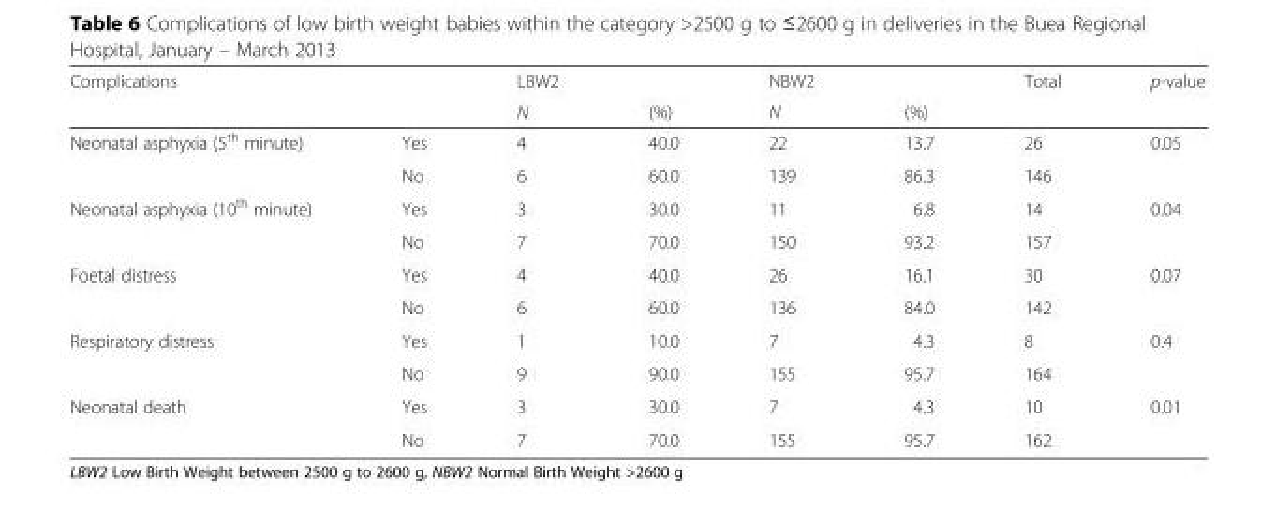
<table><thead><tr><td rowspan="2">Complications</td><td rowspan="2"></td><td rowspan="2">LBW2 N</td><td rowspan="2">(%)</td><td rowspan="2">NBW2 N</td><td rowspan="2">(%)</td><td rowspan="2">Total</td><td rowspan="2">p-value</td></tr><tr></tr></thead><tbody><tr><td rowspan="2">Neonatal asphyxia (5<sup>th</sup> minute)</td><td>Yes</td><td>4</td><td>40.0</td><td>22</td><td>13.7</td><td>26</td><td>0.05</td></tr><tr><td>No</td><td>6</td><td>60.0</td><td>139</td><td>86.3</td><td>146</td><td></td></tr><tr><td rowspan="2">Neonatal asphyxia (10<sup>th</sup> minute)</td><td>Yes</td><td>3</td><td>30.0</td><td>11</td><td>6.8</td><td>14</td><td>0.04</td></tr><tr><td>No</td><td>7</td><td>70.0</td><td>150</td><td>93.2</td><td>157</td><td></td></tr><tr><td rowspan="2">Foetal distress</td><td>Yes</td><td>4</td><td>40.0</td><td>26</td><td>16.1</td><td>30</td><td>0.07</td></tr><tr><td>No</td><td>6</td><td>60.0</td><td>136</td><td>84.0</td><td>142</td><td></td></tr><tr><td rowspan="2">Respiratory distress</td><td>Yes</td><td>1</td><td>10.0</td><td>7</td><td>4.3</td><td>8</td><td>0.4</td></tr><tr><td>No</td><td>9</td><td>90.0</td><td>155</td><td>95.7</td><td>164</td><td></td></tr><tr><td rowspan="2">Neonatal death</td><td>Yes</td><td>3</td><td>30.0</td><td>7</td><td>4.3</td><td>10</td><td>0.01</td></tr><tr><td>No</td><td>7</td><td>70.0</td><td>155</td><td>95.7</td><td>162</td><td></td></tr></tbody></table>